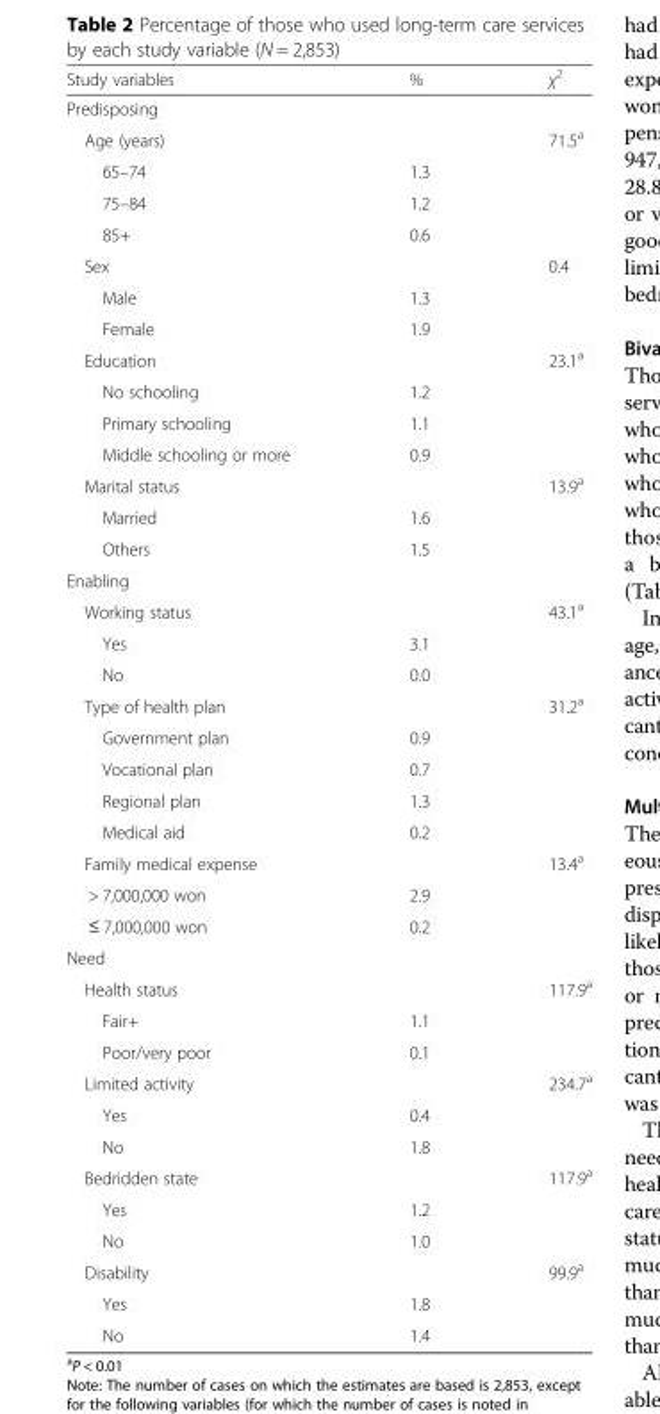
<table><thead><tr><td>Study variables</td><td>%</td><td>χ<sup>2</sup></td></tr></thead><tbody><tr><td colspan="3">Predisposing</td></tr><tr><td>Age (years)</td><td></td><td>71.5<sup>a</sup></td></tr><tr><td>65–74</td><td>1.3</td><td></td></tr><tr><td>75–84</td><td>1.2</td><td></td></tr><tr><td>85+</td><td>0.6</td><td></td></tr><tr><td>Sex</td><td></td><td>0.4</td></tr><tr><td>Male</td><td>1.3</td><td></td></tr><tr><td>Female</td><td>1.9</td><td></td></tr><tr><td>Education</td><td></td><td>23.1<sup>a</sup></td></tr><tr><td>No schooling</td><td>1.2</td><td></td></tr><tr><td>Primary schooling</td><td>1.1</td><td></td></tr><tr><td>Middle schooling or more</td><td>0.9</td><td></td></tr><tr><td>Marital status</td><td></td><td>13.9<sup>a</sup></td></tr><tr><td>Married</td><td>1.6</td><td></td></tr><tr><td>Others</td><td>1.5</td><td></td></tr><tr><td colspan="3">Enabling</td></tr><tr><td>Working status</td><td></td><td>43.1<sup>a</sup></td></tr><tr><td>Yes</td><td>3.1</td><td></td></tr><tr><td>No</td><td>0.0</td><td></td></tr><tr><td>Type of health plan</td><td></td><td>31.2<sup>a</sup></td></tr><tr><td>Government plan</td><td>0.9</td><td></td></tr><tr><td>Vocational plan</td><td>0.7</td><td></td></tr><tr><td>Regional plan</td><td>1.3</td><td></td></tr><tr><td>Medical aid</td><td>0.2</td><td></td></tr><tr><td>Family medical expense</td><td></td><td>13.4<sup>a</sup></td></tr><tr><td>&gt; 7,000,000 won</td><td>2.9</td><td></td></tr><tr><td>≤ 7,000,000 won</td><td>0.2</td><td></td></tr><tr><td colspan="3">Need</td></tr><tr><td>Health status</td><td></td><td>117.9<sup>a</sup></td></tr><tr><td>Fair+</td><td>1.1</td><td></td></tr><tr><td>Poor/very poor</td><td>0.1</td><td></td></tr><tr><td>Limited activity</td><td></td><td>234.7<sup>a</sup></td></tr><tr><td>Yes</td><td>0.4</td><td></td></tr><tr><td>No</td><td>1.8</td><td></td></tr><tr><td>Bedridden state</td><td></td><td>117.9<sup>a</sup></td></tr><tr><td>Yes</td><td>1.2</td><td></td></tr><tr><td>No</td><td>1.0</td><td></td></tr><tr><td>Disability</td><td></td><td>99.9<sup>a</sup></td></tr><tr><td>Yes</td><td>1.8</td><td></td></tr><tr><td>No</td><td>1.4</td><td></td></tr></tbody></table>